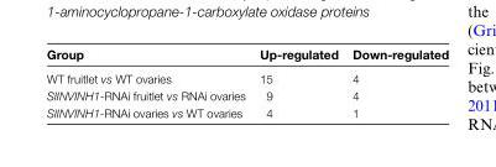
<table><thead><tr><td>Group</td><td>Up-regulated</td><td>Down-regulated</td></tr></thead><tbody><tr><td>WT fruitlet vs WT ovaries</td><td>15</td><td>4</td></tr><tr><td>SlINVINH1-RNAi fruitlet vs RNAi ovaries</td><td>9</td><td>4</td></tr><tr><td>SlINVINH1-RNAi ovaries vs WT ovaries</td><td>4</td><td>1</td></tr></tbody></table>